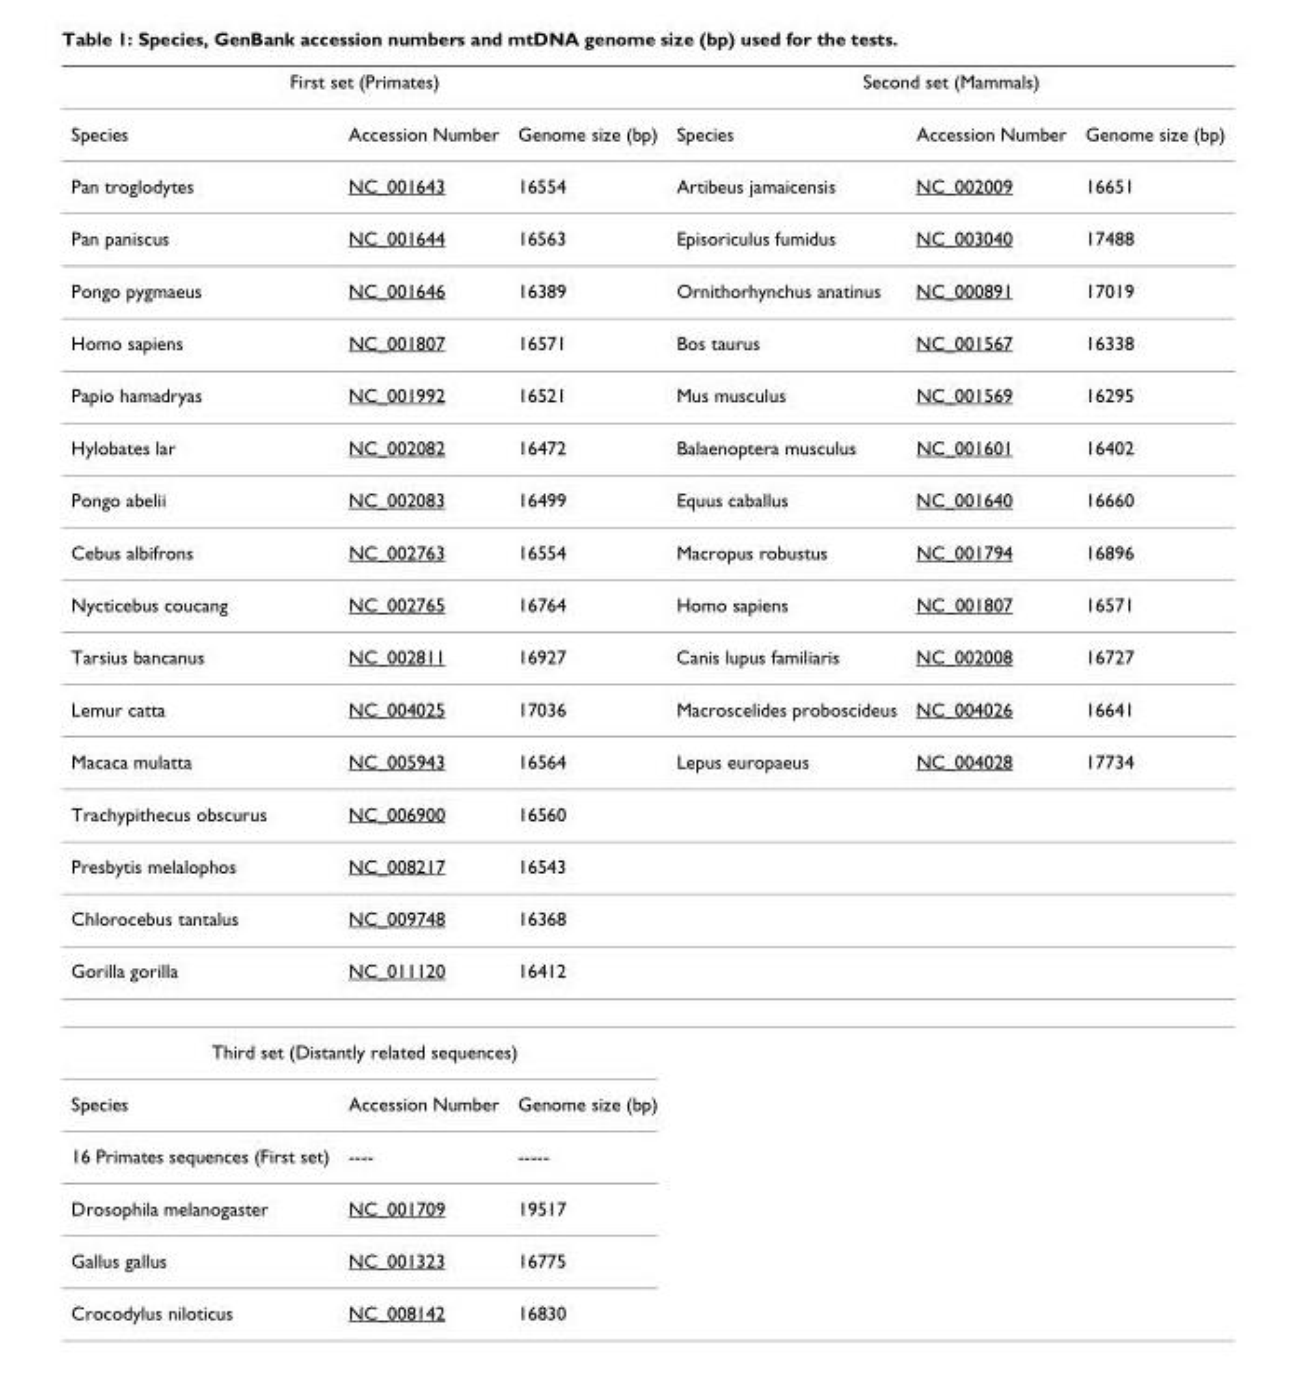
<table><thead><tr><td colspan="3">First set (Primates)</td><td colspan="3">Second set (Mammals)</td></tr><tr><td>Species</td><td>Accession Number</td><td>Genome size (bp)</td><td>Species</td><td>Accession Number</td><td>Genome size (bp)</td></tr></thead><tbody><tr><td>Pan troglodytes</td><td>NC_001643</td><td>16554</td><td>Artibeus jamaicensis</td><td>NC_002009</td><td>16651</td></tr><tr><td>Pan paniscus</td><td>NC_001644</td><td>16563</td><td>Episoriculus fumidus</td><td>NC_003040</td><td>17488</td></tr><tr><td>Pongo pygmaeus</td><td>NC_001646</td><td>16389</td><td>Ornithorhynchus anatinus</td><td>NC_000891</td><td>17019</td></tr><tr><td>Homo sapiens</td><td>NC_001807</td><td>16571</td><td>Bos taurus</td><td>NC_001567</td><td>16338</td></tr><tr><td>Papio hamadryas</td><td>NC_001992</td><td>16521</td><td>Mus musculus</td><td>NC_001569</td><td>16295</td></tr><tr><td>Hylobates lar</td><td>NC_002082</td><td>16472</td><td>Balaenoptera musculus</td><td>NC_001601</td><td>16402</td></tr><tr><td>Pongo abelii</td><td>NC_002083</td><td>16499</td><td>Equus caballus</td><td>NC_001640</td><td>16660</td></tr><tr><td>Cebus albifrons</td><td>NC_002763</td><td>16554</td><td>Macropus robustus</td><td>NC_001794</td><td>16896</td></tr><tr><td>Nycticebus coucang</td><td>NC_002765</td><td>16764</td><td>Homo sapiens</td><td>NC_001807</td><td>16571</td></tr><tr><td>Tarsius bancanus</td><td>NC_002811</td><td>16927</td><td>Canis lupus familiaris</td><td>NC_002008</td><td>16727</td></tr><tr><td>Lemur catta</td><td>NC_004025</td><td>17036</td><td>Macroscelides proboscideus</td><td>NC_004026</td><td>16641</td></tr><tr><td>Macaca mulatta</td><td>NC_005943</td><td>16564</td><td>Lepus europaeus</td><td>NC_004028</td><td>17734</td></tr><tr><td>Trachypithecus obscurus</td><td>NC_006900</td><td>16560</td><td></td><td></td><td></td></tr><tr><td>Presbytis melalophos</td><td>NC_008217</td><td>16543</td><td></td><td></td><td></td></tr><tr><td>Chlorocebus tantalus</td><td>NC_009748</td><td>16368</td><td></td><td></td><td></td></tr><tr><td>Gorilla gorilla</td><td>NC_011120</td><td>16412</td><td></td><td></td><td></td></tr><tr><td colspan="6">Third set (Distantly related sequences)</td></tr><tr><td>Species</td><td>Accession Number</td><td>Genome size (bp)</td><td></td><td></td><td></td></tr><tr><td>16 Primates sequences (First set)</td><td>----</td><td>-----</td><td></td><td></td><td></td></tr><tr><td>Drosophila melanogaster</td><td>NC_001709</td><td>19517</td><td></td><td></td><td></td></tr><tr><td>Gallus gallus</td><td>NC_001323</td><td>16775</td><td></td><td></td><td></td></tr><tr><td>Crocodylus niloticus</td><td>NC_008142</td><td>16830</td><td></td><td></td><td></td></tr></tbody></table>